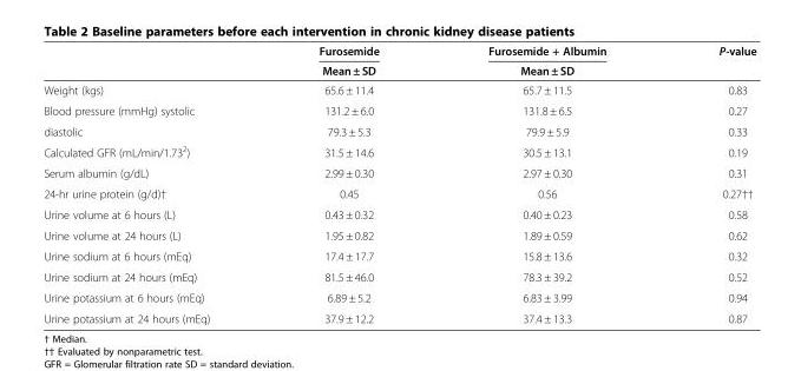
<table><thead><tr><td rowspan="2"></td><td rowspan="2">Furosemide Mean ± SD</td><td rowspan="2">Furosemide + Albumin Mean ± SD</td><td rowspan="2">P-value</td></tr><tr></tr></thead><tbody><tr><td>Weight (kgs)</td><td>65.6 ± 11.4</td><td>65.7 ± 11.5</td><td>0.83</td></tr><tr><td>Blood pressure (mmHg) systolic</td><td>131.2 ± 6.0</td><td>131.8 ± 6.5</td><td>0.27</td></tr><tr><td>diastolic</td><td>79.3 ± 5.3</td><td>79.9 ± 5.9</td><td>0.33</td></tr><tr><td>Calculated GFR (mL/min/1.73<sup>2</sup>)</td><td>31.5 ± 14.6</td><td>30.5 ± 13.1</td><td>0.19</td></tr><tr><td>Serum albumin (g/dL)</td><td>2.99 ± 0.30</td><td>2.97 ± 0.30</td><td>0.31</td></tr><tr><td>24-hr urine protein (g/d)†</td><td>0.45</td><td>0.56</td><td>0.27††</td></tr><tr><td>Urine volume at 6 hours (L)</td><td>0.43 ± 0.32</td><td>0.40 ± 0.23</td><td>0.58</td></tr><tr><td>Urine volume at 24 hours (L)</td><td>1.95 ± 0.82</td><td>1.89 ± 0.59</td><td>0.62</td></tr><tr><td>Urine sodium at 6 hours (mEq)</td><td>17.4 ± 17.7</td><td>15.8 ± 13.6</td><td>0.32</td></tr><tr><td>Urine sodium at 24 hours (mEq)</td><td>81.5 ± 46.0</td><td>78.3 ± 39.2</td><td>0.52</td></tr><tr><td>Urine potassium at 6 hours (mEq)</td><td>6.89 ± 5.2</td><td>6.83 ± 3.99</td><td>0.94</td></tr><tr><td>Urine potassium at 24 hours (mEq)</td><td>37.9 ± 12.2</td><td>37.4 ± 13.3</td><td>0.87</td></tr></tbody></table>